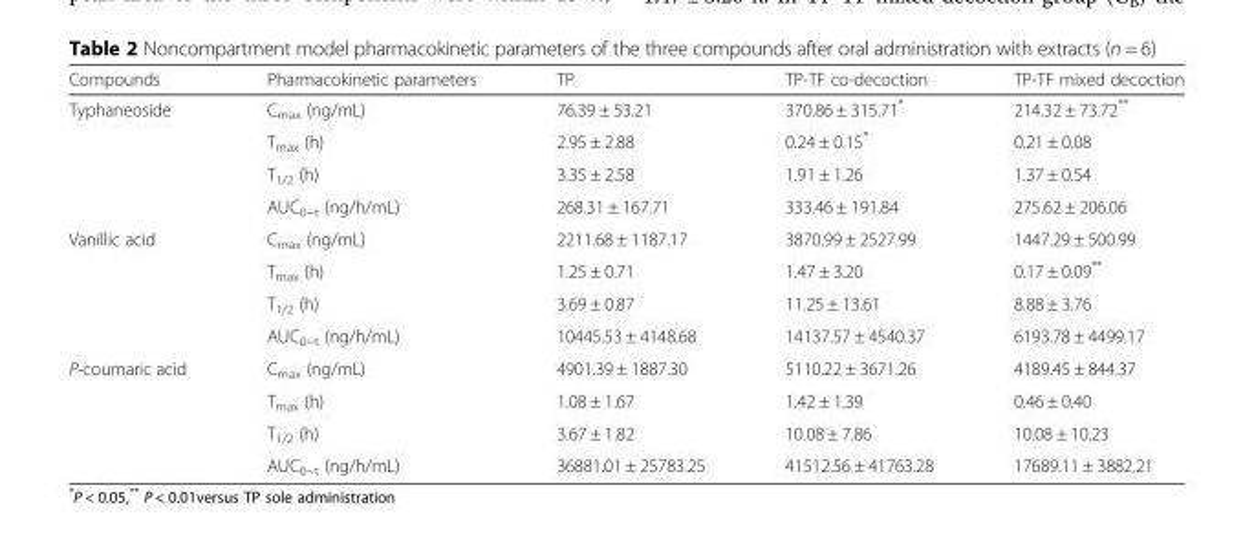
<table><thead><tr><td>Compounds</td><td>Pharmacokinetic parameters</td><td>TP</td><td>TP-TF co-decoction</td><td>TP-TF mixed decoction</td></tr></thead><tbody><tr><td rowspan="4">Typhaneoside</td><td>C<sub>max</sub> (ng/mL)</td><td>76.39 ± 53.21</td><td>370.86 ± 315.71*</td><td>214.32 ± 73.72**</td></tr><tr><td>T<sub>max</sub> (h)</td><td>2.95 ± 2.88</td><td>0.24 ± 0.15*</td><td>0.21 ± 0.08</td></tr><tr><td>T<sub>1/2</sub> (h)</td><td>3.35 ± 2.58</td><td>1.91 ± 1.26</td><td>1.37 ± 0.54</td></tr><tr><td>AUC<sub>0~t</sub> (ng/h/mL)</td><td>268.31 ± 167.71</td><td>333.46 ± 191.84</td><td>275.62 ± 206.06</td></tr><tr><td rowspan="4">Vanillic acid</td><td>C<sub>max</sub> (ng/mL)</td><td>2211.68 ± 1187.17</td><td>3870.99 ± 2527.99</td><td>1447.29 ± 500.99</td></tr><tr><td>T<sub>max</sub> (h)</td><td>1.25 ± 0.71</td><td>1.47 ± 3.20</td><td>0.17 ± 0.09**</td></tr><tr><td>T<sub>1/2</sub> (h)</td><td>3.69 ± 0.87</td><td>11.25 ± 13.61</td><td>8.88 ± 3.76</td></tr><tr><td>AUC<sub>0~t</sub> (ng/h/mL)</td><td>10445.53 ± 4148.68</td><td>14137.57 ± 4540.37</td><td>6193.78 ± 4499.17</td></tr><tr><td rowspan="4">P-coumaric acid</td><td>C<sub>max</sub> (ng/mL)</td><td>4901.39 ± 1887.30</td><td>5110.22 ± 3671.26</td><td>4189.45 ± 844.37</td></tr><tr><td>T<sub>max</sub> (h)</td><td>1.08 ± 1.67</td><td>1.42 ± 1.39</td><td>0.46 ± 0.40</td></tr><tr><td>T<sub>1/2</sub> (h)</td><td>3.67 ± 1.82</td><td>10.08 ± 7.86</td><td>10.08 ± 10.23</td></tr><tr><td>AUC<sub>0~t</sub> (ng/h/mL)</td><td>36881.01 ± 25783.25</td><td>41512.56 ± 41763.28</td><td>17689.11 ± 3882.21</td></tr></tbody></table>